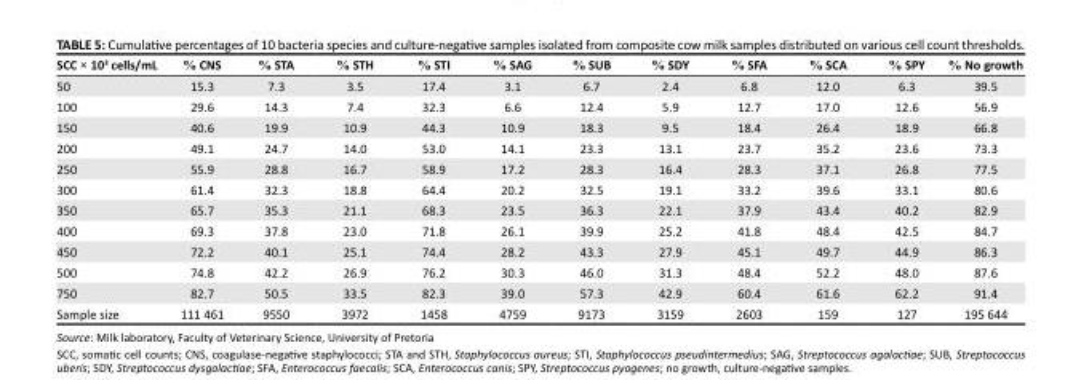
<table><thead><tr><td>SCC × 10<sup>3</sup> cells/mL</td><td>% CNS</td><td>% STA</td><td>% STH</td><td>% STI</td><td>% SAG</td><td>% SUB</td><td>% SDY</td><td>% SFA</td><td>% SCA</td><td>% SPY</td><td>% No growth</td></tr></thead><tbody><tr><td>50</td><td>15.3</td><td>7.3</td><td>3.5</td><td>17.4</td><td>3.1</td><td>6.7</td><td>2.4</td><td>6.8</td><td>12.0</td><td>6.3</td><td>39.5</td></tr><tr><td>100</td><td>29.6</td><td>14.3</td><td>7.4</td><td>32.3</td><td>6.6</td><td>12.4</td><td>5.9</td><td>12.7</td><td>17.0</td><td>12.6</td><td>56.9</td></tr><tr><td>150</td><td>40.6</td><td>19.9</td><td>10.9</td><td>44.3</td><td>10.9</td><td>18.3</td><td>9.5</td><td>18.4</td><td>26.4</td><td>18.9</td><td>66.8</td></tr><tr><td>200</td><td>49.1</td><td>24.7</td><td>14.0</td><td>53.0</td><td>14.1</td><td>23.3</td><td>13.1</td><td>23.7</td><td>35.2</td><td>23.6</td><td>73.3</td></tr><tr><td>250</td><td>55.9</td><td>28.8</td><td>16.7</td><td>58.9</td><td>17.2</td><td>28.3</td><td>16.4</td><td>28.3</td><td>37.1</td><td>26.8</td><td>77.5</td></tr><tr><td>300</td><td>61.4</td><td>32.3</td><td>18.8</td><td>64.4</td><td>20.2</td><td>32.5</td><td>19.1</td><td>33.2</td><td>39.6</td><td>33.1</td><td>80.6</td></tr><tr><td>350</td><td>65.7</td><td>35.3</td><td>21.1</td><td>68.3</td><td>23.5</td><td>36.3</td><td>22.1</td><td>37.9</td><td>43.4</td><td>40.2</td><td>82.9</td></tr><tr><td>400</td><td>69.3</td><td>37.8</td><td>23.0</td><td>71.8</td><td>26.1</td><td>39.9</td><td>25.2</td><td>41.8</td><td>48.4</td><td>42.5</td><td>84.7</td></tr><tr><td>450</td><td>72.2</td><td>40.1</td><td>25.1</td><td>74.4</td><td>28.2</td><td>43.3</td><td>27.9</td><td>45.1</td><td>49.7</td><td>44.9</td><td>86.3</td></tr><tr><td>500</td><td>74.8</td><td>42.2</td><td>26.9</td><td>76.2</td><td>30.3</td><td>46.0</td><td>31.3</td><td>48.4</td><td>52.2</td><td>48.0</td><td>87.6</td></tr><tr><td>750</td><td>82.7</td><td>50.5</td><td>33.5</td><td>82.3</td><td>39.0</td><td>57.3</td><td>42.9</td><td>60.4</td><td>61.6</td><td>62.2</td><td>91.4</td></tr><tr><td>Sample size</td><td>111 461</td><td>9550</td><td>3972</td><td>1458</td><td>4759</td><td>9173</td><td>3159</td><td>2603</td><td>159</td><td>127</td><td>195 644</td></tr></tbody></table>